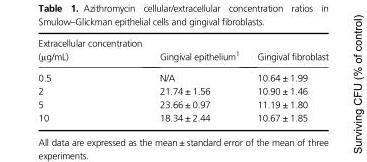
<table><thead><tr><td>Extracellular concentration (μg/mL)</td><td>Gingival epithelium1</td><td>Gingival fibroblast</td></tr></thead><tbody><tr><td>0.5</td><td>N/A</td><td>10.64 ± 1.99</td></tr><tr><td>2</td><td>21.74 ± 1.56</td><td>10.90 ± 1.46</td></tr><tr><td>5</td><td>23.66 ± 0.97</td><td>11.19 ± 1.80</td></tr><tr><td>10</td><td>18.34 ± 2.44</td><td>10.67 ± 1.85</td></tr></tbody></table>